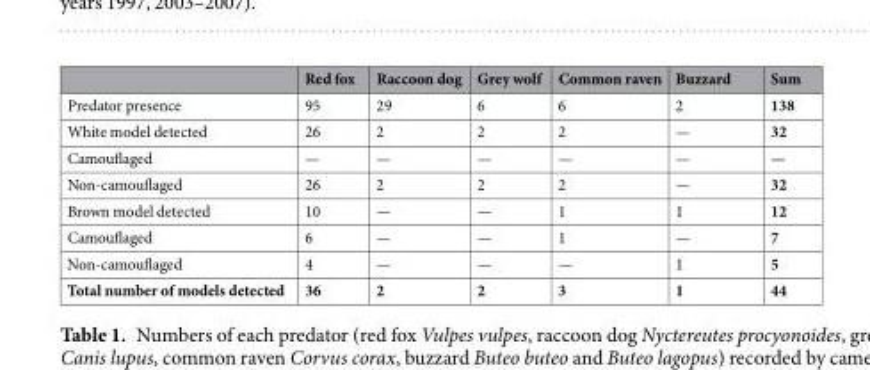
<table><thead><tr><td></td><td>Red fox</td><td>Raccoon dog</td><td>Grey wolf</td><td>Common raven</td><td>Buzzard</td><td>Sum</td></tr></thead><tbody><tr><td>Predator presence</td><td>95</td><td>29</td><td>6</td><td>6</td><td>2</td><td>138</td></tr><tr><td>White model detected</td><td>26</td><td>2</td><td>2</td><td>2</td><td>—</td><td>32</td></tr><tr><td>Camouflaged</td><td>—</td><td>—</td><td>—</td><td>—</td><td>—</td><td>—</td></tr><tr><td>Non-camouflaged</td><td>26</td><td>2</td><td>2</td><td>2</td><td>—</td><td>32</td></tr><tr><td>Brown model detected</td><td>10</td><td>—</td><td>—</td><td>1</td><td>1</td><td>12</td></tr><tr><td>Camouflaged</td><td>6</td><td>—</td><td>—</td><td>1</td><td>—</td><td>7</td></tr><tr><td>Non-camouflaged</td><td>4</td><td>—</td><td>—</td><td>—</td><td>1</td><td>5</td></tr><tr><td>Total number of models detected</td><td>36</td><td>2</td><td>2</td><td>3</td><td>1</td><td>44</td></tr></tbody></table>